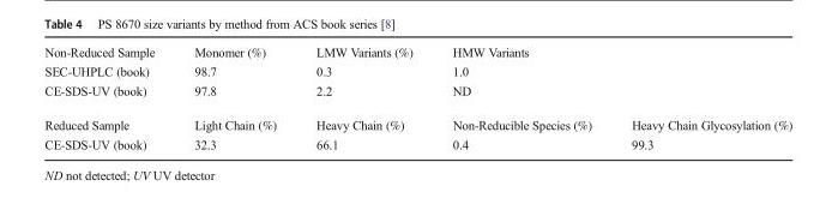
<table><tbody><tr><td>Non-Reduced Sample</td><td>Monomer (%)</td><td>LMW Variants (%)</td><td>HMW Variants</td><td></td></tr><tr><td>SEC-UHPLC (book)</td><td>98.7</td><td>0.3</td><td>1.0</td><td></td></tr><tr><td>CE-SDS-UV (book)</td><td>97.8</td><td>2.2</td><td>ND</td><td></td></tr><tr><td>Reduced Sample</td><td>Light Chain (%)</td><td>Heavy Chain (%)</td><td>Non-Reducible Species (%)</td><td>Heavy Chain Glycosylation (%)</td></tr><tr><td>CE-SDS-UV (book)</td><td>32.3</td><td>66.1</td><td>0.4</td><td>99.3</td></tr></tbody></table>